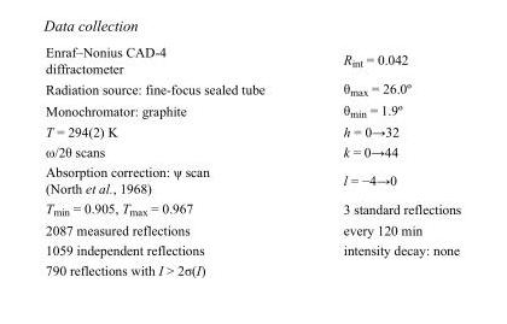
<table><tbody><tr><td>Enraf–Nonius CAD-4 diffractometer</td><td>R<sub>int</sub> = 0.042</td></tr><tr><td>Radiation source: fine-focus sealed tube</td><td>θ<sub>max</sub> = 26.0º</td></tr><tr><td>Monochromator: graphite</td><td>θ<sub>min</sub> = 1.9º</td></tr><tr><td>T = 294(2) K</td><td>h = 0→32</td></tr><tr><td>ω/2θ scans</td><td>k = 0→44</td></tr><tr><td>Absorption correction: ψ scan (North et al., 1968)</td><td>l = −4→0</td></tr><tr><td>T<sub>min</sub> = 0.905, T<sub>max</sub> = 0.967</td><td>3 standard reflections</td></tr><tr><td>2087 measured reflections</td><td>every 120 min</td></tr><tr><td>1059 independent reflections</td><td>intensity decay: none</td></tr><tr><td>790 reflections with I &gt; 2σ(I)</td><td></td></tr></tbody></table>